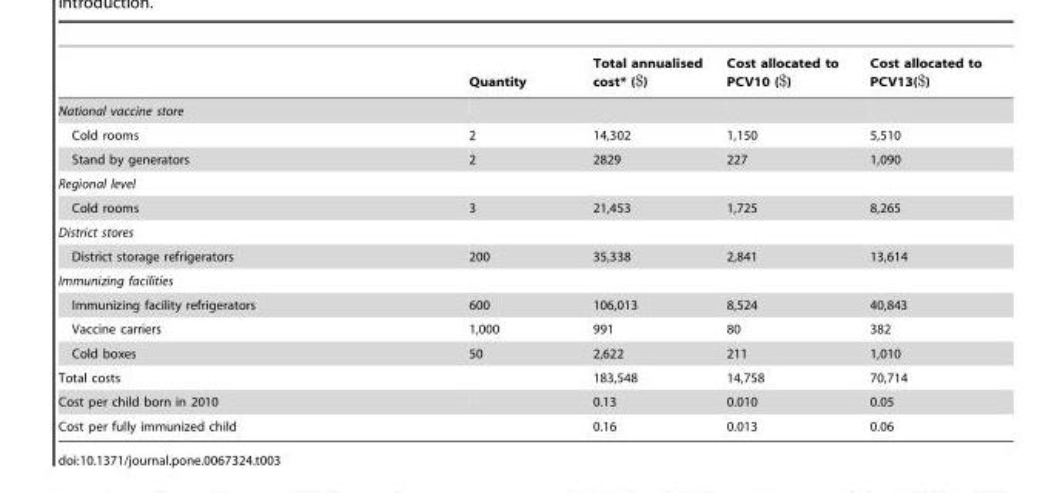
<table><thead><tr><td></td><td>Quantity</td><td>Total annualised cost* ($)</td><td>Cost allocated to PCV10 ($)</td><td>Cost allocated to PCV13($)</td></tr></thead><tbody><tr><td colspan="5">National vaccine store</td></tr><tr><td>Cold rooms</td><td>2</td><td>14,302</td><td>1,150</td><td>5,510</td></tr><tr><td>Stand by generators</td><td>2</td><td>2829</td><td>227</td><td>1,090</td></tr><tr><td colspan="5">Regional level</td></tr><tr><td>Cold rooms</td><td>3</td><td>21,453</td><td>1,725</td><td>8,265</td></tr><tr><td colspan="5">District stores</td></tr><tr><td>District storage refrigerators</td><td>200</td><td>35,338</td><td>2,841</td><td>13,614</td></tr><tr><td colspan="5">Immunizing facilities</td></tr><tr><td>Immunizing facility refrigerators</td><td>600</td><td>106,013</td><td>8,524</td><td>40,843</td></tr><tr><td>Vaccine carriers</td><td>1,000</td><td>991</td><td>80</td><td>382</td></tr><tr><td>Cold boxes</td><td>50</td><td>2,622</td><td>211</td><td>1,010</td></tr><tr><td>Total costs</td><td></td><td>183,548</td><td>14,758</td><td>70,714</td></tr><tr><td>Cost per child born in 2010</td><td></td><td>0.13</td><td>0.010</td><td>0.05</td></tr><tr><td>Cost per fully immunized child</td><td></td><td>0.16</td><td>0.013</td><td>0.06</td></tr></tbody></table>